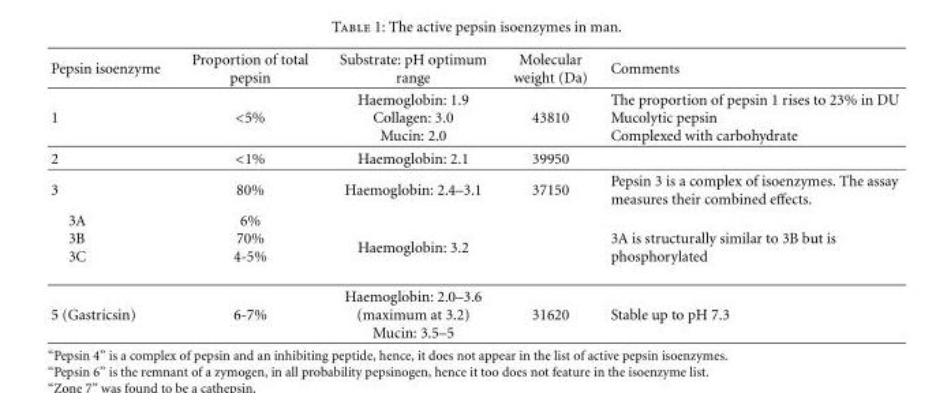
<table><thead><tr><td>Pepsin isoenzyme</td><td>Proportion of total pepsin</td><td>Substrate: pH optimum range</td><td>Molecular weight (Da)</td><td>Comments</td></tr></thead><tbody><tr><td>1</td><td>&lt;5%</td><td>Haemoglobin: 1.9 Collagen: 3.0 Mucin: 2.0</td><td>43810</td><td>The proportion of pepsin 1 rises to 23% in DU Mucolytic pepsin Complexed with carbohydrate</td></tr><tr><td>2</td><td>&lt;1%</td><td>Haemoglobin: 2.1</td><td>39950</td><td></td></tr><tr><td>3</td><td>80%</td><td>Haemoglobin: 2.4–3.1</td><td>37150</td><td>Pepsin 3 is a complex of isoenzymes. The assay measures their combined effects.</td></tr><tr><td>3A 3B 3C</td><td>6% 70% 4-5%</td><td>Haemoglobin: 3.2</td><td></td><td>3A is structurally similar to 3B but is phosphorylated</td></tr><tr><td>5 (Gastricsin)</td><td>6-7%</td><td>Haemoglobin: 2.0–3.6 (maximum at 3.2) Mucin: 3.5–5</td><td>31620</td><td>Stable up to pH 7.3</td></tr></tbody></table>